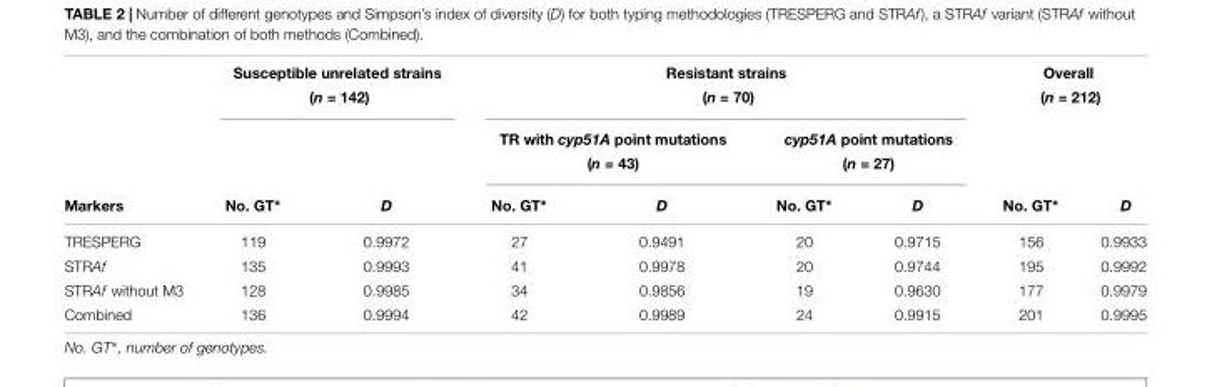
<table><thead><tr><td rowspan="5">Markers</td><td rowspan="2" colspan="2">Susceptible unrelated strains (n = 142)</td><td rowspan="2" colspan="4">Resistant strains (n = 70)</td><td rowspan="2" colspan="2">Overall (n = 212)</td></tr><tr></tr><tr><td rowspan="3">No. GT∗</td><td rowspan="3">D</td><td rowspan="2" colspan="2">TR with cyp51A point mutations (n = 43)</td><td rowspan="2" colspan="2">cyp51A point mutations (n = 27)</td><td rowspan="3">No. GT∗</td><td rowspan="3">D</td></tr><tr></tr><tr><td>No. GT∗</td><td>D</td><td>No. GT∗</td><td>D</td></tr></thead><tbody><tr><td>TRESPERG</td><td>119</td><td>0.9972</td><td>27</td><td>0.9491</td><td>20</td><td>0.9715</td><td>156</td><td>0.9933</td></tr><tr><td>STRAf</td><td>135</td><td>0.9993</td><td>41</td><td>0.9978</td><td>20</td><td>0.9744</td><td>195</td><td>0.9992</td></tr><tr><td>STRAf without M3</td><td>128</td><td>0.9985</td><td>34</td><td>0.9856</td><td>19</td><td>0.9630</td><td>177</td><td>0.9979</td></tr><tr><td>Combined</td><td>136</td><td>0.9994</td><td>42</td><td>0.9989</td><td>24</td><td>0.9915</td><td>201</td><td>0.9995</td></tr></tbody></table>